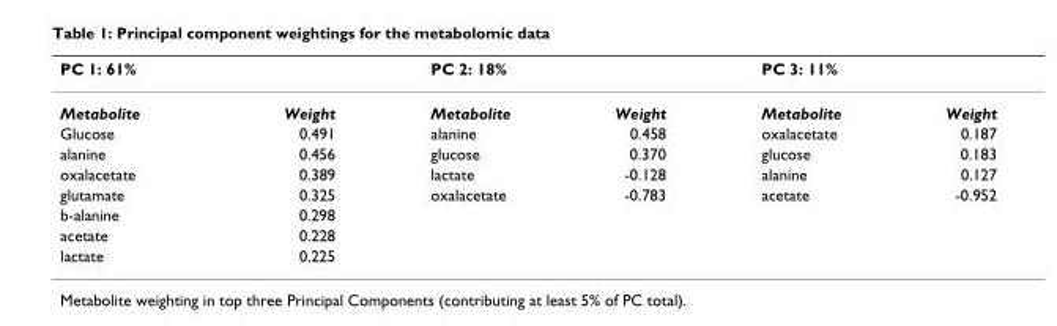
<table><thead><tr><td>PC 1: 61%</td><td></td><td>PC 2: 18%</td><td></td><td>PC 3: 11%</td><td></td></tr></thead><tbody><tr><td>Metabolite</td><td>Weight</td><td>Metabolite</td><td>Weight</td><td>Metabolite</td><td>Weight</td></tr><tr><td>Glucose</td><td>0.491</td><td>alanine</td><td>0.458</td><td>oxalacetate</td><td>0.187</td></tr><tr><td>alanine</td><td>0.456</td><td>glucose</td><td>0.370</td><td>glucose</td><td>0.183</td></tr><tr><td>oxalacetate</td><td>0.389</td><td>lactate</td><td>-0.128</td><td>alanine</td><td>0.127</td></tr><tr><td>glutamate</td><td>0.325</td><td>oxalacetate</td><td>-0.783</td><td>acetate</td><td>-0.952</td></tr><tr><td>b-alanine</td><td>0.298</td><td></td><td></td><td></td><td></td></tr><tr><td>acetate</td><td>0.228</td><td></td><td></td><td></td><td></td></tr><tr><td>lactate</td><td>0.225</td><td></td><td></td><td></td><td></td></tr></tbody></table>